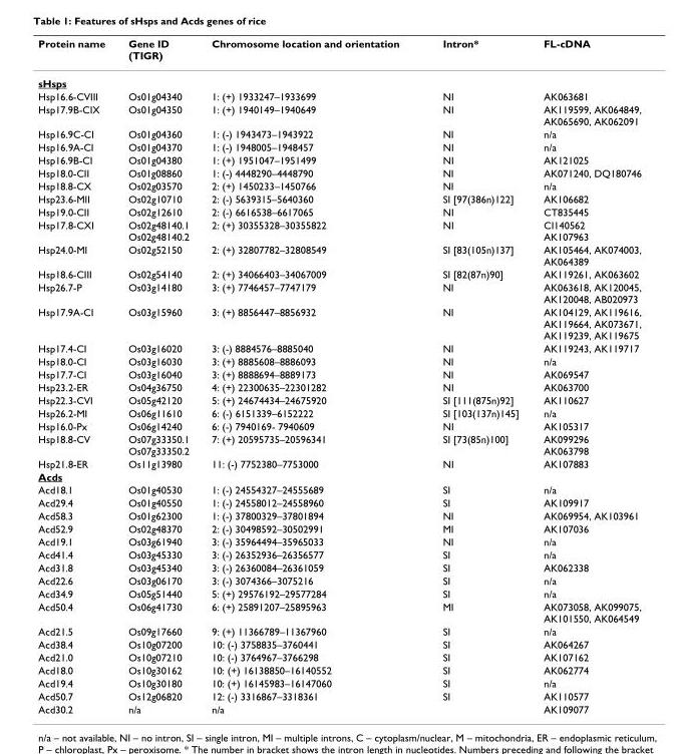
<table><thead><tr><td>Protein name</td><td>Gene ID (TIGR)</td><td>Chromosome location and orientation</td><td>Intron*</td><td>FL-cDNA</td></tr></thead><tbody><tr><td colspan="5">sHsps</td></tr><tr><td>Hsp16.6-CVIII</td><td>Os01g04340</td><td>1: (+) 1933247–1933699</td><td>NI</td><td>AK063681</td></tr><tr><td>Hsp17.9B-CIX</td><td>Os01g04350</td><td>1: (+) 1940149–1940649</td><td>NI</td><td>AK119599, AK064849, AK065690, AK062091</td></tr><tr><td>Hsp16.9C-CI</td><td>Os01g04360</td><td>1: (-) 1943473–1943922</td><td>NI</td><td>n/a</td></tr><tr><td>Hsp16.9A-CI</td><td>Os01g04370</td><td>1: (-) 1948005–1948457</td><td>NI</td><td>n/a</td></tr><tr><td>Hsp16.9B-CI</td><td>Os01g04380</td><td>1: (+) 1951047–1951499</td><td>NI</td><td>AK121025</td></tr><tr><td>Hsp18.0-CII</td><td>Os01g08860</td><td>1: (-) 4448290–4448790</td><td>NI</td><td>AK071240, DQ180746</td></tr><tr><td>Hsp18.8-CX</td><td>Os02g03570</td><td>2: (+) 1450233–1450766</td><td>NI</td><td>n/a</td></tr><tr><td>Hsp23.6-MII</td><td>Os02g10710</td><td>2: (-) 5639315–5640360</td><td>SI [97(386n)122]</td><td>AK106682</td></tr><tr><td>Hsp19.0-CII</td><td>Os02g12610</td><td>2: (-) 6616538–6617065</td><td>NI</td><td>CT835445</td></tr><tr><td>Hsp17.8-CXI</td><td>Os02g48140.1 Os02g48140.2</td><td>2: (+) 30355328–30355822</td><td>NI</td><td>CI140562 AK107963</td></tr><tr><td>Hsp24.0-MI</td><td>Os02g52150</td><td>2: (+) 32807782–32808549</td><td>SI [83(105n)137]</td><td>AK105464, AK074003, AK064389</td></tr><tr><td>Hsp18.6-CIII</td><td>Os02g54140</td><td>2: (+) 34066403–34067009</td><td>SI [82(87n)90]</td><td>AK119261, AK063602</td></tr><tr><td>Hsp26.7-P</td><td>Os03g14180</td><td>3: (+) 7746457–7747179</td><td>NI</td><td>AK063618, AK120045, AK120048, AB020973</td></tr><tr><td>Hsp17.9A-CI</td><td>Os03g15960</td><td>3: (+) 8856447–8856932</td><td>NI</td><td>AK104129, AK119616, AK119664, AK073671, AK119239, AK119675</td></tr><tr><td>Hsp17.4-CI</td><td>Os03g16020</td><td>3: (-) 8884576–8885040</td><td>NI</td><td>AK119243, AK119717</td></tr><tr><td>Hsp18.0-CI</td><td>Os03g16030</td><td>3: (+) 8885608–8886093</td><td>NI</td><td>n/a</td></tr><tr><td>Hsp17.7-CI</td><td>Os03g16040</td><td>3: (+) 8888694–8889173</td><td>NI</td><td>AK069547</td></tr><tr><td>Hsp23.2-ER</td><td>Os04g36750</td><td>4: (+) 22300635–22301282</td><td>NI</td><td>AK063700</td></tr><tr><td>Hsp22.3-CVI</td><td>Os05g42120</td><td>5: (+) 24674434–24675920</td><td>SI [111(875n)92]</td><td>AK110627</td></tr><tr><td>Hsp26.2-MI</td><td>Os06g11610</td><td>6: (-) 6151339–6152222</td><td>SI [103(137n)145]</td><td>n/a</td></tr><tr><td>Hsp16.0-Px</td><td>Os06g14240</td><td>6: (-) 7940169- 7940609</td><td>NI</td><td>AK105317</td></tr><tr><td>Hsp18.8-CV</td><td>Os07g33350.1 Os07g33350.2</td><td>7: (+) 20595735–20596341</td><td>SI [73(85n)100]</td><td>AK099296 AK063798</td></tr><tr><td>Hsp21.8-ER</td><td>Os11g13980</td><td>11: (-) 7752380–7753000</td><td>NI</td><td>AK107883</td></tr><tr><td colspan="5">Acds</td></tr><tr><td>Acd18.1</td><td>Os01g40530</td><td>1: (-) 24554327–24555689</td><td>SI</td><td>n/a</td></tr><tr><td>Acd29.4</td><td>Os01g40550</td><td>1: (-) 24558012–24558960</td><td>SI</td><td>AK109917</td></tr><tr><td>Acd58.3</td><td>Os01g62300</td><td>1: (-) 37800329–37801894</td><td>NI</td><td>AK069954, AK103961</td></tr><tr><td>Acd52.9</td><td>Os02g48370</td><td>2: (-) 30498592–30502991</td><td>MI</td><td>AK107036</td></tr><tr><td>Acd19.1</td><td>Os03g61940</td><td>3: (-) 35964494–35965033</td><td>NI</td><td>n/a</td></tr><tr><td>Acd41.4</td><td>Os03g45330</td><td>3: (-) 26352936–26356577</td><td>SI</td><td>n/a</td></tr><tr><td>Acd31.8</td><td>Os03g45340</td><td>3: (-) 26360084–26361059</td><td>SI</td><td>AK062338</td></tr><tr><td>Acd22.6</td><td>Os03g06170</td><td>3: (-) 3074366–3075216</td><td>SI</td><td>n/a</td></tr><tr><td>Acd34.9</td><td>Os05g51440</td><td>5: (+) 29576192–29577284</td><td>SI</td><td>n/a</td></tr><tr><td>Acd50.4</td><td>Os06g41730</td><td>6: (+) 25891207–25895963</td><td>MI</td><td>AK073058, AK099075, AK101550, AK064549</td></tr><tr><td>Acd21.5</td><td>Os09g17660</td><td>9: (+) 11366789–11367960</td><td>SI</td><td>n/a</td></tr><tr><td>Acd38.4</td><td>Os10g07200</td><td>10: (-) 3758835–3760441</td><td>SI</td><td>AK064267</td></tr><tr><td>Acd21.0</td><td>Os10g07210</td><td>10: (-) 3764967–3766298</td><td>SI</td><td>AK107162</td></tr><tr><td>Acd18.0</td><td>Os10g30162</td><td>10: (+) 16138850–16140552</td><td>SI</td><td>AK062774</td></tr><tr><td>Acd19.4</td><td>Os10g30180</td><td>10: (+) 16145983–16147060</td><td>SI</td><td>n/a</td></tr><tr><td>Acd50.7</td><td>Os12g06820</td><td>12: (-) 3316867–3318361</td><td>SI</td><td>AK110577</td></tr><tr><td>Acd30.2</td><td>n/a</td><td>n/a</td><td></td><td>AK109077</td></tr></tbody></table>